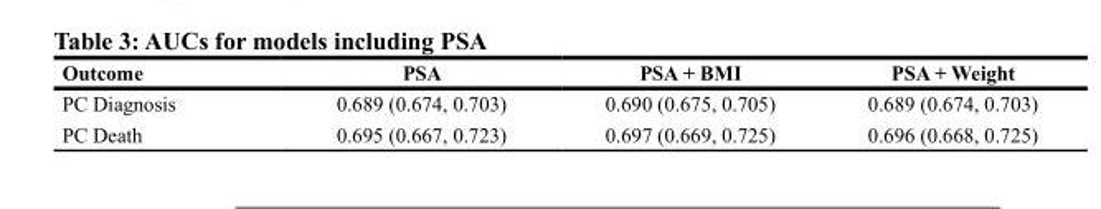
<table><thead><tr><td>Outcome</td><td>PSA</td><td>PSA + BMI</td><td>PSA + Weight</td></tr></thead><tbody><tr><td>PC Diagnosis</td><td>0.689 (0.674, 0.703)</td><td>0.690 (0.675, 0.705)</td><td>0.689 (0.674, 0.703)</td></tr><tr><td>PC Death</td><td>0.695 (0.667, 0.723)</td><td>0.697 (0.669, 0.725)</td><td>0.696 (0.668, 0.725)</td></tr></tbody></table>